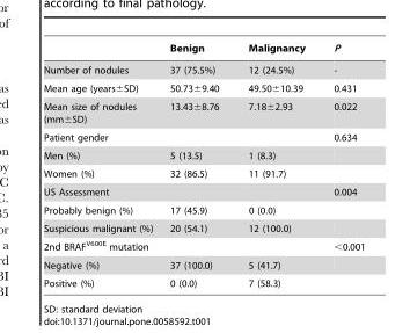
<table><thead><tr><td></td><td>Benign</td><td>Malignancy</td><td>P</td></tr></thead><tbody><tr><td>Number of nodules</td><td>37 (75.5%)</td><td>12 (24.5%)</td><td>-</td></tr><tr><td>Mean age (years±SD)</td><td>50.73±9.40</td><td>49.50±10.39</td><td>0.431</td></tr><tr><td>Mean size of nodules (mm±SD)</td><td>13.43±8.76</td><td>7.18±2.93</td><td>0.022</td></tr><tr><td>Patient gender</td><td></td><td></td><td>0.634</td></tr><tr><td>Men (%)</td><td>5 (13.5)</td><td>1 (8.3)</td><td></td></tr><tr><td>Women (%)</td><td>32 (86.5)</td><td>11 (91.7)</td><td></td></tr><tr><td>US Assessment</td><td></td><td></td><td>0.004</td></tr><tr><td>Probably benign (%)</td><td>17 (45.9)</td><td>0 (0.0)</td><td></td></tr><tr><td>Suspicious malignant (%)</td><td>20 (54.1)</td><td>12 (100.0)</td><td></td></tr><tr><td>2nd BRAF<sup>V600E</sup> mutation</td><td></td><td></td><td>&lt;0.001</td></tr><tr><td>Negative (%)</td><td>37 (100.0)</td><td>5 (41.7)</td><td></td></tr><tr><td>Positive (%)</td><td>0 (0.0)</td><td>7 (58.3)</td><td></td></tr></tbody></table>